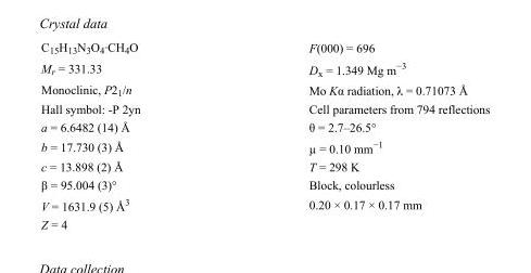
<table><tbody><tr><td>C<sub>15</sub>H<sub>13</sub>N<sub>3</sub>O<sub>4</sub>·CH<sub>4</sub>O</td><td>F(000) = 696</td></tr><tr><td>M<sub>r</sub> = 331.33</td><td>D<sub>x</sub> = 1.349 Mg m<sup>−3</sup></td></tr><tr><td>Monoclinic, P2<sub>1</sub>/n</td><td>Mo Kα radiation, λ = 0.71073 Å</td></tr><tr><td>Hall symbol: -P 2yn</td><td>Cell parameters from 794 reflections</td></tr><tr><td>a = 6.6482 (14) Å</td><td>θ = 2.7–26.5°</td></tr><tr><td>b = 17.730 (3) Å</td><td>µ = 0.10 mm<sup>−1</sup></td></tr><tr><td>c = 13.898 (2) Å</td><td>T = 298 K</td></tr><tr><td>β = 95.004 (3)°</td><td>Block, colourless</td></tr><tr><td>V = 1631.9 (5) Å<sup>3</sup></td><td>0.20 × 0.17 × 0.17 mm</td></tr><tr><td>Z = 4</td><td></td></tr></tbody></table>